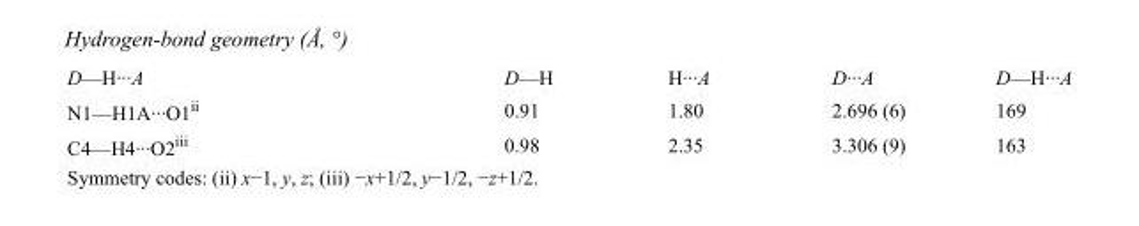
<table><tbody><tr><td>D—H···A</td><td>D—H</td><td>H···A</td><td>D···A</td><td>D—H···A</td></tr><tr><td>N1—H1A···O1<sup>ii</sup></td><td>0.91</td><td>1.80</td><td>2.696 (6)</td><td>169</td></tr><tr><td>C4—H4···O2<sup>iii</sup></td><td>0.98</td><td>2.35</td><td>3.306 (9)</td><td>163</td></tr></tbody></table>